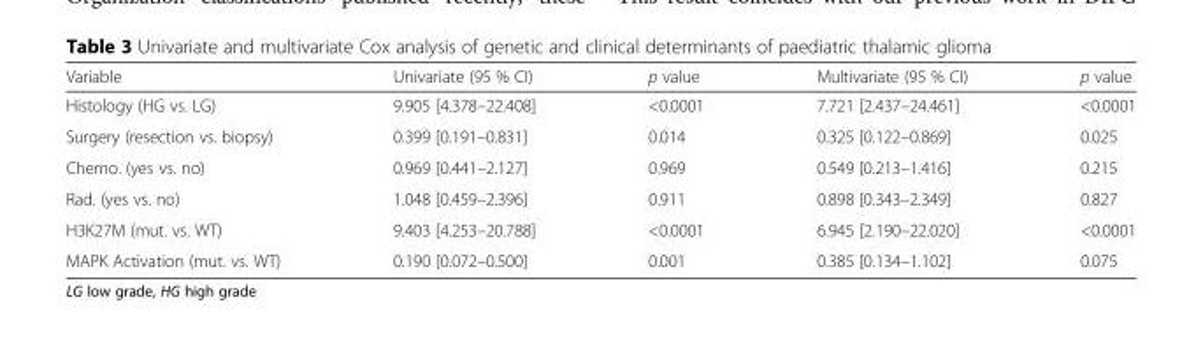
<table><thead><tr><td>Variable</td><td>Univariate (95 % CI)</td><td>p value</td><td>Multivariate (95 % CI)</td><td>p value</td></tr></thead><tbody><tr><td>Histology (HG vs. LG)</td><td>9.905 [4.378–22.408]</td><td>&lt;0.0001</td><td>7.721 [2.437–24.461]</td><td>&lt;0.0001</td></tr><tr><td>Surgery (resection vs. biopsy)</td><td>0.399 [0.191–0.831]</td><td>0.014</td><td>0.325 [0.122–0.869]</td><td>0.025</td></tr><tr><td>Chemo. (yes vs. no)</td><td>0.969 [0.441–2.127]</td><td>0.969</td><td>0.549 [0.213–1.416]</td><td>0.215</td></tr><tr><td>Rad. (yes vs. no)</td><td>1.048 [0.459–2.396]</td><td>0.911</td><td>0.898 [0.343–2.349]</td><td>0.827</td></tr><tr><td>H3K27M (mut. vs. WT)</td><td>9.403 [4.253–20.788]</td><td>&lt;0.0001</td><td>6.945 [2.190–22.020]</td><td>&lt;0.0001</td></tr><tr><td>MAPK Activation (mut. vs. WT)</td><td>0.190 [0.072–0.500]</td><td>0.001</td><td>0.385 [0.134–1.102]</td><td>0.075</td></tr></tbody></table>